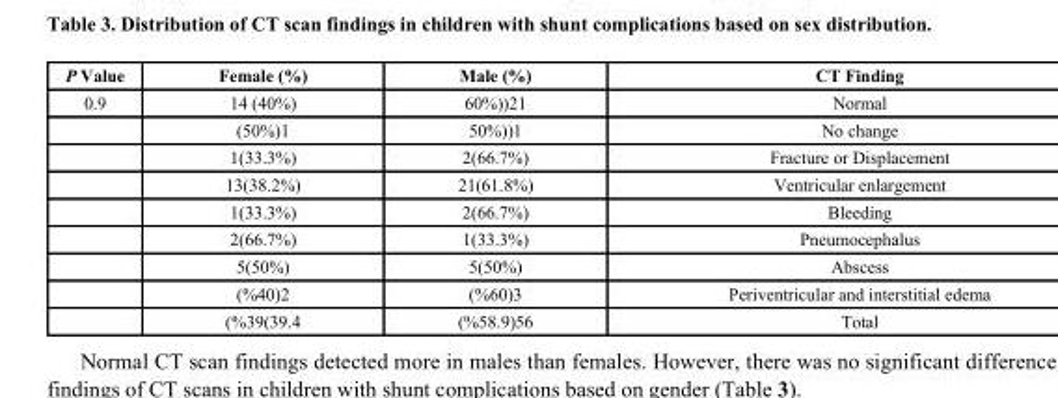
<table><thead><tr><td>P Value</td><td>Female (%)</td><td>Male (%)</td><td>CT Finding</td></tr></thead><tbody><tr><td rowspan="9">0.9</td><td>14 (40%)</td><td>60%))21</td><td>Normal</td></tr><tr><td>(50%)1</td><td>50%))1</td><td>No change</td></tr><tr><td>1(33.3%)</td><td>2(66.7%)</td><td>Fracture or Displacement</td></tr><tr><td>13(38.2%)</td><td>21(61.8%)</td><td>Ventricular enlargement</td></tr><tr><td>1(33.3%)</td><td>2(66.7%)</td><td>Bleeding</td></tr><tr><td>2(66.7%)</td><td>1(33.3%)</td><td>Pneumocephalus</td></tr><tr><td>5(50%)</td><td>5(50%)</td><td>Abscess</td></tr><tr><td>(%40)2</td><td>(%60)3</td><td>Periventricular and interstitial edema</td></tr><tr><td>(%39(39.4</td><td>(%58.9)56</td><td>Total</td></tr></tbody></table>